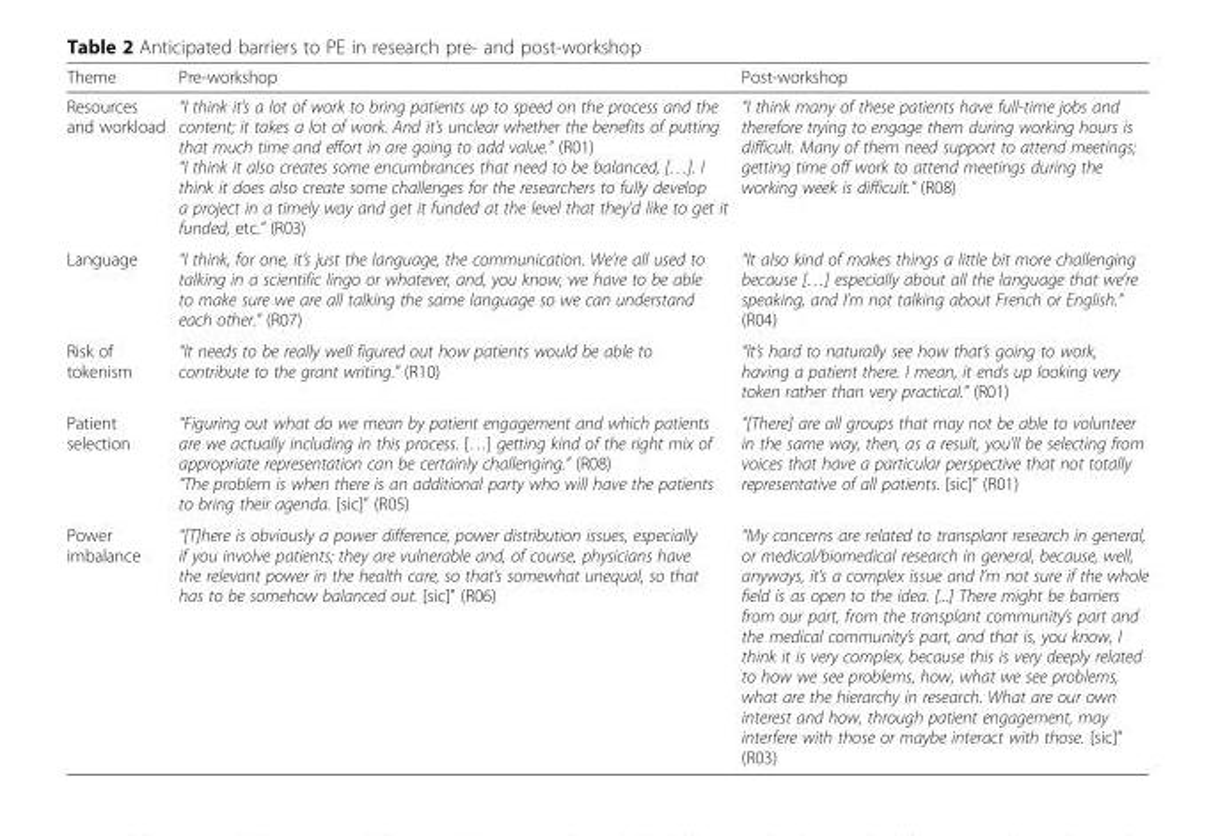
<table><thead><tr><td>Theme</td><td>Pre-workshop</td><td>Post-workshop</td></tr></thead><tbody><tr><td>Resources and workload</td><td>“I think it’s a lot of work to bring patients up to speed on the process and the content; it takes a lot of work. And it’s unclear whether the benefits of putting that much time and effort in are going to add value.” (R01) “I think it also creates some encumbrances that need to be balanced, […]. I think it does also create some challenges for the researchers to fully develop a project in a timely way and get it funded at the level that they’d like to get it funded, etc.” (R03)</td><td>“I think many of these patients have full-time jobs and therefore trying to engage them during working hours is difficult. Many of them need support to attend meetings; getting time off work to attend meetings during the working week is difficult.” (R08)</td></tr><tr><td>Language</td><td>“I think, for one, it’s just the language, the communication. We’re all used to talking in a scientific lingo or whatever, and, you know, we have to be able to make sure we are all talking the same language so we can understand each other.” (R07)</td><td>“It also kind of makes things a little bit more challenging because […] especially about all the language that we’re speaking, and I’m not talking about French or English.” (R04)</td></tr><tr><td>Risk of tokenism</td><td>“It needs to be really well figured out how patients would be able to contribute to the grant writing.” (R10)</td><td>“It’s hard to naturally see how that’s going to work, having a patient there. I mean, it ends up looking very token rather than very practical.” (R01)</td></tr><tr><td>Patient selection</td><td>“Figuring out what do we mean by patient engagement and which patients are we actually including in this process. […] getting kind of the right mix of appropriate representation can be certainly challenging.” (R08) “The problem is when there is an additional party who will have the patients to bring their agenda. [sic]” (R05)</td><td>“[There] are all groups that may not be able to volunteer in the same way, then, as a result, you’ll be selecting from voices that have a particular perspective that not totally representative of all patients. [sic]” (R01)</td></tr><tr><td>Power imbalance</td><td>“[T]here is obviously a power difference, power distribution issues, especially if you involve patients; they are vulnerable and, of course, physicians have the relevant power in the health care, so that’s somewhat unequal, so that has to be somehow balanced out. [sic]” (R06)</td><td>“My concerns are related to transplant research in general, or medical/biomedical research in general, because, well, anyways, it’s a complex issue and I’m not sure if the whole field is as open to the idea. [...] There might be barriers from our part, from the transplant community’s part and the medical community’s part, and that is, you know, I think it is very complex, because this is very deeply related to how we see problems, how, what we see problems, what are the hierarchy in research. What are our own interest and how, through patient engagement, may interfere with those or maybe interact with those. [sic]” (R03)</td></tr></tbody></table>